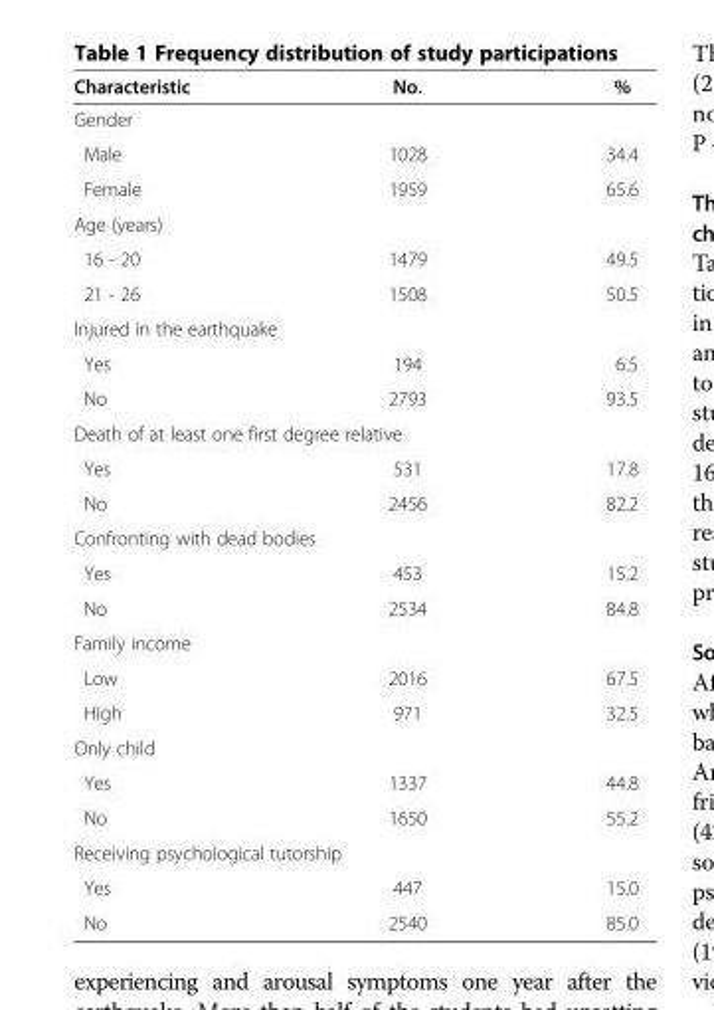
<table><thead><tr><td>Characteristic</td><td>No.</td><td>%</td></tr></thead><tbody><tr><td colspan="3">Gender</td></tr><tr><td>Male</td><td>1028</td><td>34.4</td></tr><tr><td>Female</td><td>1959</td><td>65.6</td></tr><tr><td colspan="3">Age (years)</td></tr><tr><td>16 - 20</td><td>1479</td><td>49.5</td></tr><tr><td>21 - 26</td><td>1508</td><td>50.5</td></tr><tr><td colspan="3">Injured in the earthquake</td></tr><tr><td>Yes</td><td>194</td><td>6.5</td></tr><tr><td>No</td><td>2793</td><td>93.5</td></tr><tr><td colspan="3">Death of at least one first degree relative</td></tr><tr><td>Yes</td><td>531</td><td>17.8</td></tr><tr><td>No</td><td>2456</td><td>82.2</td></tr><tr><td colspan="3">Confronting with dead bodies</td></tr><tr><td>Yes</td><td>453</td><td>15.2</td></tr><tr><td>No</td><td>2534</td><td>84.8</td></tr><tr><td colspan="3">Family income</td></tr><tr><td>Low</td><td>2016</td><td>67.5</td></tr><tr><td>High</td><td>971</td><td>32.5</td></tr><tr><td colspan="3">Only child</td></tr><tr><td>Yes</td><td>1337</td><td>44.8</td></tr><tr><td>No</td><td>1650</td><td>55.2</td></tr><tr><td colspan="3">Receiving psychological tutorship</td></tr><tr><td>Yes</td><td>447</td><td>15.0</td></tr><tr><td>No</td><td>2540</td><td>85.0</td></tr></tbody></table>